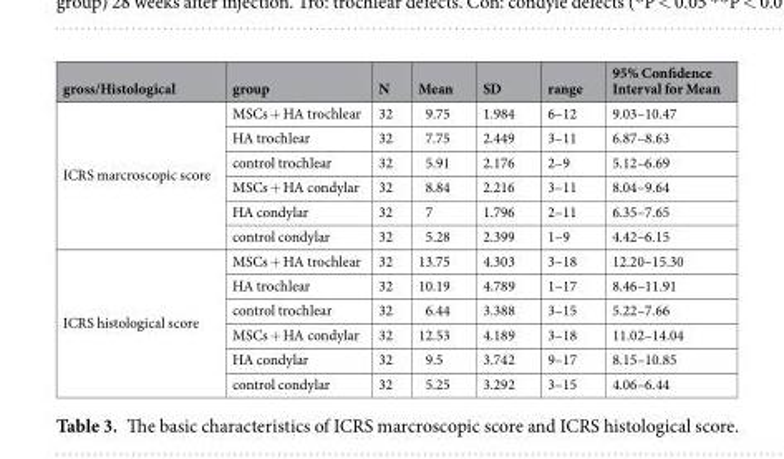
<table><thead><tr><td>gross/Histological</td><td>group</td><td>N</td><td>Mean</td><td>SD</td><td>range</td><td>95% Confidence Interval for Mean</td></tr></thead><tbody><tr><td rowspan="6">ICRS marcroscopic score</td><td>MSCs + HA trochlear</td><td>32</td><td>9.75</td><td>1.984</td><td>6–12</td><td>9.03–10.47</td></tr><tr><td>HA trochlear</td><td>32</td><td>7.75</td><td>2.449</td><td>3–11</td><td>6.87–8.63</td></tr><tr><td>control trochlear</td><td>32</td><td>5.91</td><td>2.176</td><td>2–9</td><td>5.12–6.69</td></tr><tr><td>MSCs + HA condylar</td><td>32</td><td>8.84</td><td>2.216</td><td>3–11</td><td>8.04–9.64</td></tr><tr><td>HA condylar</td><td>32</td><td>7</td><td>1.796</td><td>2–11</td><td>6.35–7.65</td></tr><tr><td>control condylar</td><td>32</td><td>5.28</td><td>2.399</td><td>1–9</td><td>4.42–6.15</td></tr><tr><td rowspan="6">ICRS histological score</td><td>MSCs + HA trochlear</td><td>32</td><td>13.75</td><td>4.303</td><td>3–18</td><td>12.20–15.30</td></tr><tr><td>HA trochlear</td><td>32</td><td>10.19</td><td>4.789</td><td>1–17</td><td>8.46–11.91</td></tr><tr><td>control trochlear</td><td>32</td><td>6.44</td><td>3.388</td><td>3–15</td><td>5.22–7.66</td></tr><tr><td>MSCs + HA condylar</td><td>32</td><td>12.53</td><td>4.189</td><td>3–18</td><td>11.02–14.04</td></tr><tr><td>HA condylar</td><td>32</td><td>9.5</td><td>3.742</td><td>9–17</td><td>8.15–10.85</td></tr><tr><td>control condylar</td><td>32</td><td>5.25</td><td>3.292</td><td>3–15</td><td>4.06–6.44</td></tr></tbody></table>